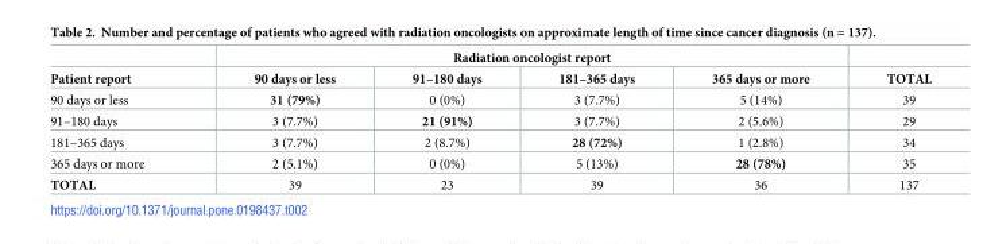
<table><thead><tr><td rowspan="2">Patient report</td><td colspan="4">Radiation oncologist report</td><td rowspan="2">TOTAL</td></tr><tr><td>90 days or less</td><td>91–180 days</td><td>181–365 days</td><td>365 days or more</td></tr></thead><tbody><tr><td>90 days or less</td><td>31 (79%)</td><td>0 (0%)</td><td>3 (7.7%)</td><td>5 (14%)</td><td>39</td></tr><tr><td>91–180 days</td><td>3 (7.7%)</td><td>21 (91%)</td><td>3 (7.7%)</td><td>2 (5.6%)</td><td>29</td></tr><tr><td>181–365 days</td><td>3 (7.7%)</td><td>2 (8.7%)</td><td>28 (72%)</td><td>1 (2.8%)</td><td>34</td></tr><tr><td>365 days or more</td><td>2 (5.1%)</td><td>0 (0%)</td><td>5 (13%)</td><td>28 (78%)</td><td>35</td></tr><tr><td>TOTAL</td><td>39</td><td>23</td><td>39</td><td>36</td><td>137</td></tr></tbody></table>